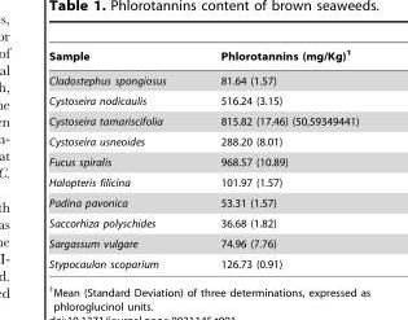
<table><thead><tr><td>Sample</td><td>Phlorotannins (mg/Kg)<sup>1</sup></td></tr></thead><tbody><tr><td>Cladostephus spongiosus</td><td>81.64 (1.57)</td></tr><tr><td>Cystoseira nodicaulis</td><td>516.24 (3.15)</td></tr><tr><td>Cystoseira tamariscifolia</td><td>815.82 (17.46) (50,59349441)</td></tr><tr><td>Cystoseira usneoides</td><td>288.20 (8.01)</td></tr><tr><td>Fucus spiralis</td><td>968.57 (10.89)</td></tr><tr><td>Halopteris filicina</td><td>101.97 (1.57)</td></tr><tr><td>Padina pavonica</td><td>53.31 (1.57)</td></tr><tr><td>Saccorhiza polyschides</td><td>36.68 (1.82)</td></tr><tr><td>Sargassum vulgare</td><td>74.96 (7.76)</td></tr><tr><td>Stypocaulon scoparium</td><td>126.73 (0.91)</td></tr></tbody></table>